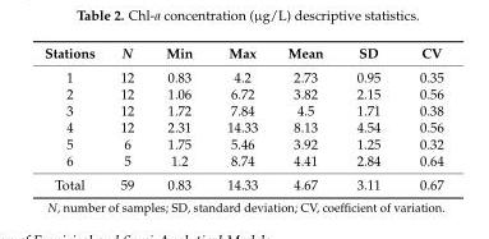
<table><thead><tr><td>Stations</td><td>N</td><td>Min</td><td>Max</td><td>Mean</td><td>SD</td><td>CV</td></tr></thead><tbody><tr><td>1</td><td>12</td><td>0.83</td><td>4.2</td><td>2.73</td><td>0.95</td><td>0.35</td></tr><tr><td>2</td><td>12</td><td>1.06</td><td>6.72</td><td>3.82</td><td>2.15</td><td>0.56</td></tr><tr><td>3</td><td>12</td><td>1.72</td><td>7.84</td><td>4.5</td><td>1.71</td><td>0.38</td></tr><tr><td>4</td><td>12</td><td>2.31</td><td>14.33</td><td>8.13</td><td>4.54</td><td>0.56</td></tr><tr><td>5</td><td>6</td><td>1.75</td><td>5.46</td><td>3.92</td><td>1.25</td><td>0.32</td></tr><tr><td>6</td><td>5</td><td>1.2</td><td>8.74</td><td>4.41</td><td>2.84</td><td>0.64</td></tr><tr><td>Total</td><td>59</td><td>0.83</td><td>14.33</td><td>4.67</td><td>3.11</td><td>0.67</td></tr></tbody></table>